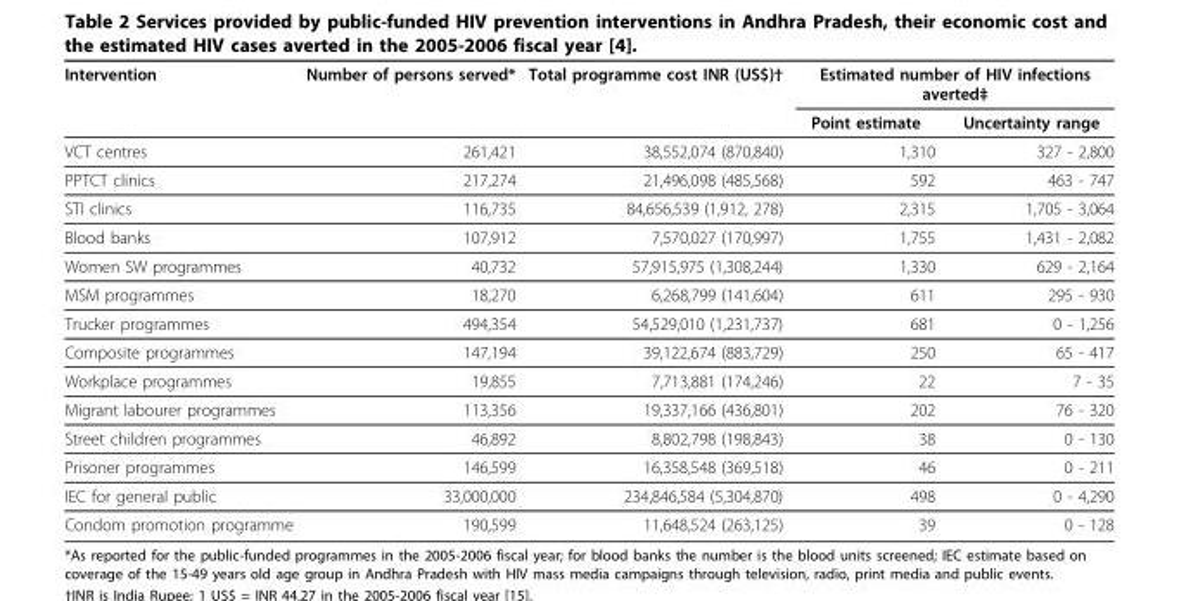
<table><thead><tr><td rowspan="2">Intervention</td><td rowspan="2">Number of persons served*</td><td rowspan="2">Total programme cost INR (US$)†</td><td colspan="2">Estimated number of HIV infections averted‡</td></tr><tr><td>Point estimate</td><td>Uncertainty range</td></tr></thead><tbody><tr><td>VCT centres</td><td>261,421</td><td>38,552,074 (870,840)</td><td>1,310</td><td>327 - 2,800</td></tr><tr><td>PPTCT clinics</td><td>217,274</td><td>21,496,098 (485,568)</td><td>592</td><td>463 - 747</td></tr><tr><td>STI clinics</td><td>116,735</td><td>84,656,539 (1,912, 278)</td><td>2,315</td><td>1,705 - 3,064</td></tr><tr><td>Blood banks</td><td>107,912</td><td>7,570,027 (170,997)</td><td>1,755</td><td>1,431 - 2,082</td></tr><tr><td>Women SW programmes</td><td>40,732</td><td>57,915,975 (1,308,244)</td><td>1,330</td><td>629 - 2,164</td></tr><tr><td>MSM programmes</td><td>18,270</td><td>6,268,799 (141,604)</td><td>611</td><td>295 - 930</td></tr><tr><td>Trucker programmes</td><td>494,354</td><td>54,529,010 (1,231,737)</td><td>681</td><td>0 - 1,256</td></tr><tr><td>Composite programmes</td><td>147,194</td><td>39,122,674 (883,729)</td><td>250</td><td>65 - 417</td></tr><tr><td>Workplace programmes</td><td>19,855</td><td>7,713,881 (174,246)</td><td>22</td><td>7 - 35</td></tr><tr><td>Migrant labourer programmes</td><td>113,356</td><td>19,337,166 (436,801)</td><td>202</td><td>76 - 320</td></tr><tr><td>Street children programmes</td><td>46,892</td><td>8,802,798 (198,843)</td><td>38</td><td>0 - 130</td></tr><tr><td>Prisoner programmes</td><td>146,599</td><td>16,358,548 (369,518)</td><td>46</td><td>0 - 211</td></tr><tr><td>IEC for general public</td><td>33,000,000</td><td>234,846,584 (5,304,870)</td><td>498</td><td>0 - 4,290</td></tr><tr><td>Condom promotion programme</td><td>190,599</td><td>11,648,524 (263,125)</td><td>39</td><td>0 - 128</td></tr></tbody></table>